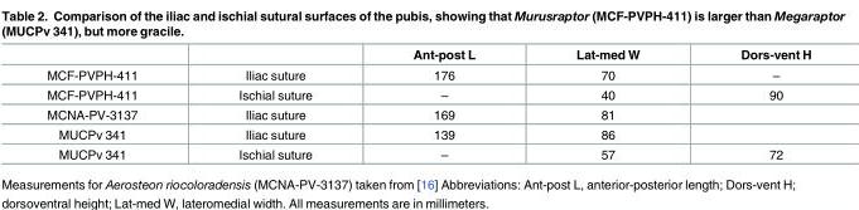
<table><thead><tr><td></td><td></td><td>Ant-post L</td><td>Lat-med W</td><td>Dors-vent H</td></tr></thead><tbody><tr><td>MCF-PVPH-411</td><td>Iliac suture</td><td>176</td><td>70</td><td>–</td></tr><tr><td>MCF-PVPH-411</td><td>Ischial suture</td><td>–</td><td>40</td><td>90</td></tr><tr><td>MCNA-PV-3137</td><td>Iliac suture</td><td>169</td><td>81</td><td></td></tr><tr><td>MUCPv 341</td><td>Iliac suture</td><td>139</td><td>86</td><td></td></tr><tr><td>MUCPv 341</td><td>Ischial suture</td><td>–</td><td>57</td><td>72</td></tr></tbody></table>